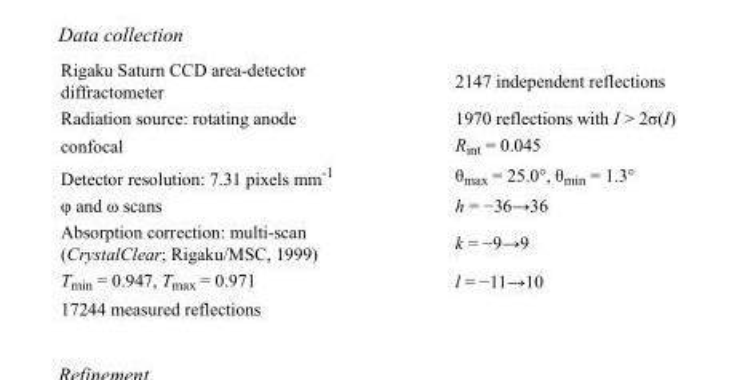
<table><tbody><tr><td>Rigaku Saturn CCD area-detector diffractometer</td><td>2147 independent reflections</td></tr><tr><td>Radiation source: rotating anode</td><td>1970 reflections with I &gt; 2σ(I)</td></tr><tr><td>confocal</td><td>R<sub>int</sub> = 0.045</td></tr><tr><td>Detector resolution: 7.31 pixels mm<sup>-1</sup></td><td>θ<sub>max</sub> = 25.0°, θ<sub>min</sub> = 1.3°</td></tr><tr><td>φ and ω scans</td><td>h = −36→36</td></tr><tr><td>Absorption correction: multi-scan (CrystalClear; Rigaku/MSC, 1999)</td><td>k = −9→9</td></tr><tr><td>T<sub>min</sub> = 0.947, T<sub>max</sub> = 0.971</td><td>l = −11→10</td></tr><tr><td>17244 measured reflections</td><td></td></tr></tbody></table>